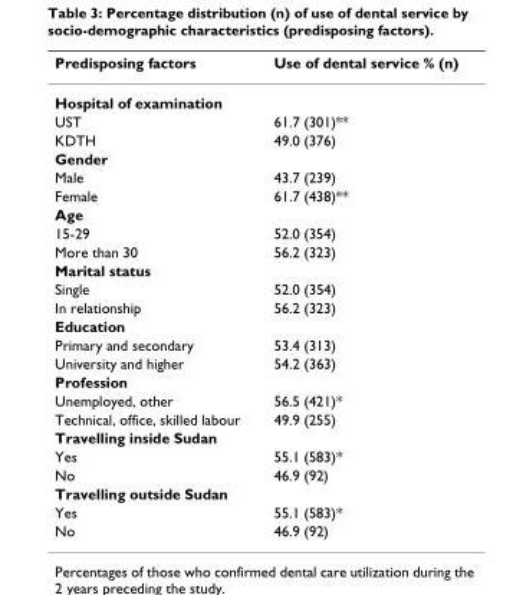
<table><thead><tr><td>Predisposing factors</td><td>Use of dental service % (n)</td></tr></thead><tbody><tr><td colspan="2">Hospital of examination</td></tr><tr><td>UST</td><td>61.7 (301)**</td></tr><tr><td>KDTH</td><td>49.0 (376)</td></tr><tr><td colspan="2">Gender</td></tr><tr><td>Male</td><td>43.7 (239)</td></tr><tr><td>Female</td><td>61.7 (438)**</td></tr><tr><td colspan="2">Age</td></tr><tr><td>15-29</td><td>52.0 (354)</td></tr><tr><td>More than 30</td><td>56.2 (323)</td></tr><tr><td colspan="2">Marital status</td></tr><tr><td>Single</td><td>52.0 (354)</td></tr><tr><td>In relationship</td><td>56.2 (323)</td></tr><tr><td colspan="2">Education</td></tr><tr><td>Primary and secondary</td><td>53.4 (313)</td></tr><tr><td>University and higher</td><td>54.2 (363)</td></tr><tr><td colspan="2">Profession</td></tr><tr><td>Unemployed, other</td><td>56.5 (421)*</td></tr><tr><td>Technical, office, skilled labour</td><td>49.9 (255)</td></tr><tr><td colspan="2">Travelling inside Sudan</td></tr><tr><td>Yes</td><td>55.1 (583)*</td></tr><tr><td>No</td><td>46.9 (92)</td></tr><tr><td colspan="2">Travelling outside Sudan</td></tr><tr><td>Yes</td><td>55.1 (583)*</td></tr><tr><td>No</td><td>46.9 (92)</td></tr></tbody></table>